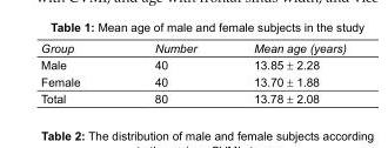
<table><tbody><tr><td>Group</td><td>Number</td><td>Mean age (years)</td></tr><tr><td>Male</td><td>40</td><td>13.85 ± 2.28</td></tr><tr><td>Female</td><td>40</td><td>13.70 ± 1.88</td></tr><tr><td>Total</td><td>80</td><td>13.78 ± 2.08</td></tr></tbody></table>